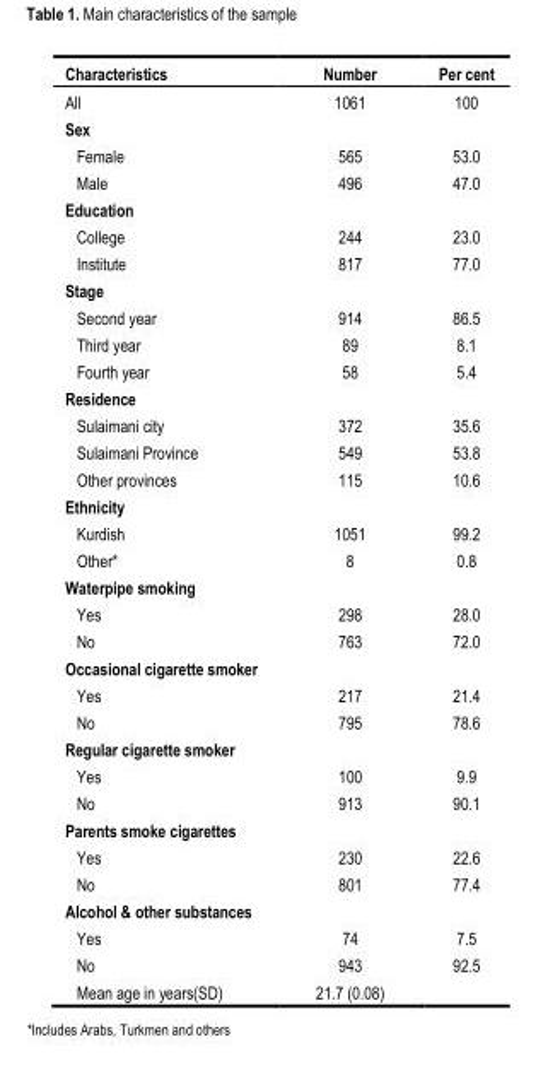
<table><thead><tr><td>Characteristics</td><td>Number</td><td>Per cent</td></tr></thead><tbody><tr><td>All</td><td>1061</td><td>100</td></tr><tr><td colspan="3">Sex</td></tr><tr><td>Female</td><td>565</td><td>53.0</td></tr><tr><td>Male</td><td>496</td><td>47.0</td></tr><tr><td colspan="3">Education</td></tr><tr><td>College</td><td>244</td><td>23.0</td></tr><tr><td>Institute</td><td>817</td><td>77.0</td></tr><tr><td colspan="3">Stage</td></tr><tr><td>Second year</td><td>914</td><td>86.5</td></tr><tr><td>Third year</td><td>89</td><td>8.1</td></tr><tr><td>Fourth year</td><td>58</td><td>5.4</td></tr><tr><td colspan="3">Residence</td></tr><tr><td>Sulaimani city</td><td>372</td><td>35.6</td></tr><tr><td>Sulaimani Province</td><td>549</td><td>53.8</td></tr><tr><td>Other provinces</td><td>115</td><td>10.6</td></tr><tr><td colspan="3">Ethnicity</td></tr><tr><td>Kurdish</td><td>1051</td><td>99.2</td></tr><tr><td>Other*</td><td>8</td><td>0.8</td></tr><tr><td colspan="3">Waterpipe smoking</td></tr><tr><td>Yes</td><td>298</td><td>28.0</td></tr><tr><td>No</td><td>763</td><td>72.0</td></tr><tr><td colspan="3">Occasional cigarette smoker</td></tr><tr><td>Yes</td><td>217</td><td>21.4</td></tr><tr><td>No</td><td>795</td><td>78.6</td></tr><tr><td colspan="3">Regular cigarette smoker</td></tr><tr><td>Yes</td><td>100</td><td>9.9</td></tr><tr><td>No</td><td>913</td><td>90.1</td></tr><tr><td colspan="3">Parents smoke cigarettes</td></tr><tr><td>Yes</td><td>230</td><td>22.6</td></tr><tr><td>No</td><td>801</td><td>77.4</td></tr><tr><td colspan="3">Alcohol &amp; other substances</td></tr><tr><td>Yes</td><td>74</td><td>7.5</td></tr><tr><td>No</td><td>943</td><td>92.5</td></tr><tr><td>Mean age in years(SD)</td><td>21.7 (0.08)</td><td></td></tr></tbody></table>